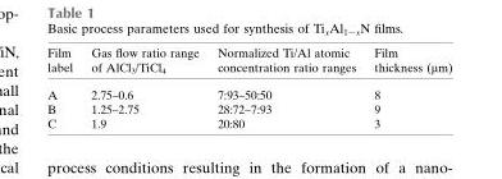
<table><thead><tr><td>Film label</td><td>Gas flow ratio range of AlCl<sub>3</sub>/TiCl<sub>4</sub></td><td>Normalized Ti/Al atomic concentration ratio ranges</td><td>Film thickness (µm)</td></tr></thead><tbody><tr><td>A</td><td>2.75–0.6</td><td>7:93–50:50</td><td>8</td></tr><tr><td>B</td><td>1.25–2.75</td><td>28:72–7:93</td><td>9</td></tr><tr><td>C</td><td>1.9</td><td>20:80</td><td>3</td></tr></tbody></table>